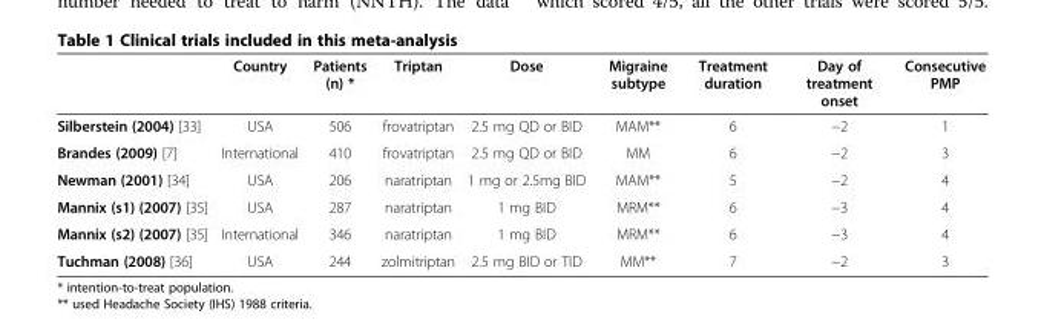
<table><thead><tr><td></td><td>Country</td><td>Patients (n) *</td><td>Triptan</td><td>Dose</td><td>Migraine subtype</td><td>Treatment duration</td><td>Day of treatment onset</td><td>Consecutive PMP</td></tr></thead><tbody><tr><td>Silberstein (2004) [33]</td><td>USA</td><td>506</td><td>frovatriptan</td><td>2.5 mg QD or BID</td><td>MAM**</td><td>6</td><td>−2</td><td>1</td></tr><tr><td>Brandes (2009) [7]</td><td>International</td><td>410</td><td>frovatriptan</td><td>2.5 mg QD or BID</td><td>MM</td><td>6</td><td>−2</td><td>3</td></tr><tr><td>Newman (2001) [34]</td><td>USA</td><td>206</td><td>naratriptan</td><td>1 mg or 2.5mg BID</td><td>MAM**</td><td>5</td><td>−2</td><td>4</td></tr><tr><td>Mannix (s1) (2007) [35]</td><td>USA</td><td>287</td><td>naratriptan</td><td>1 mg BID</td><td>MRM**</td><td>6</td><td>−3</td><td>4</td></tr><tr><td>Mannix (s2) (2007) [35]</td><td>International</td><td>346</td><td>naratriptan</td><td>1 mg BID</td><td>MRM**</td><td>6</td><td>−3</td><td>4</td></tr><tr><td>Tuchman (2008) [36]</td><td>USA</td><td>244</td><td>zolmitriptan</td><td>2.5 mg BID or TID</td><td>MM**</td><td>7</td><td>−2</td><td>3</td></tr></tbody></table>